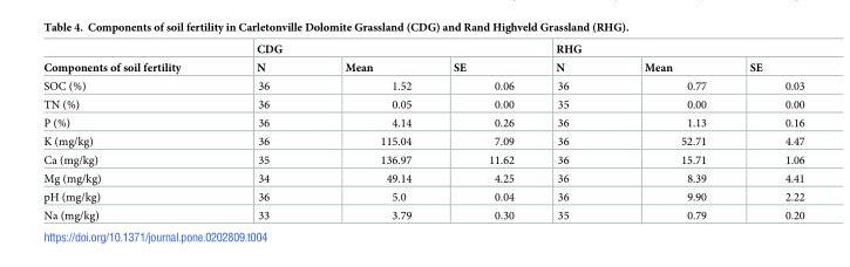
<table><thead><tr><td rowspan="2">Components of soil fertility</td><td colspan="3">CDG</td><td colspan="3">RHG</td></tr><tr><td>N</td><td>Mean</td><td>SE</td><td>N</td><td>Mean</td><td>SE</td></tr></thead><tbody><tr><td>SOC (%)</td><td>36</td><td>1.52</td><td>0.06</td><td>36</td><td>0.77</td><td>0.03</td></tr><tr><td>TN (%)</td><td>36</td><td>0.05</td><td>0.00</td><td>35</td><td>0.00</td><td>0.00</td></tr><tr><td>P (%)</td><td>36</td><td>4.14</td><td>0.26</td><td>36</td><td>1.13</td><td>0.16</td></tr><tr><td>K (mg/kg)</td><td>36</td><td>115.04</td><td>7.09</td><td>36</td><td>52.71</td><td>4.47</td></tr><tr><td>Ca (mg/kg)</td><td>35</td><td>136.97</td><td>11.62</td><td>36</td><td>15.71</td><td>1.06</td></tr><tr><td>Mg (mg/kg)</td><td>34</td><td>49.14</td><td>4.25</td><td>36</td><td>8.39</td><td>4.41</td></tr><tr><td>pH (mg/kg)</td><td>36</td><td>5.0</td><td>0.04</td><td>36</td><td>9.90</td><td>2.22</td></tr><tr><td>Na (mg/kg)</td><td>33</td><td>3.79</td><td>0.30</td><td>35</td><td>0.79</td><td>0.20</td></tr></tbody></table>